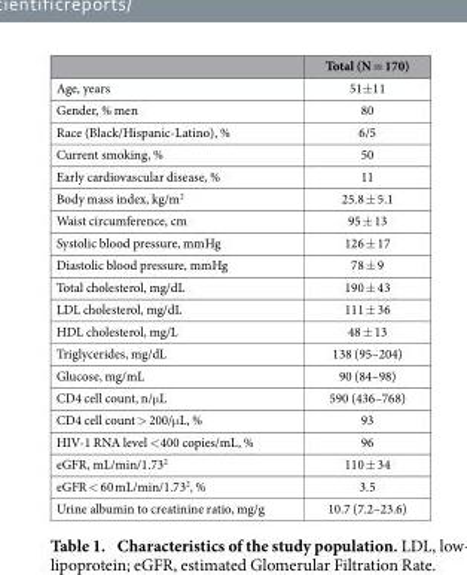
<table><thead><tr><td></td><td>Total (N = 170)</td></tr></thead><tbody><tr><td>Age, years</td><td>51± 11</td></tr><tr><td>Gender, % men</td><td>80</td></tr><tr><td>Race (Black/Hispanic-Latino), %</td><td>6/5</td></tr><tr><td>Current smoking, %</td><td>50</td></tr><tr><td>Early cardiovascular disease, %</td><td>11</td></tr><tr><td>Body mass index, kg/m<sup>2</sup></td><td>25.8 ± 5.1</td></tr><tr><td>Waist circumference, cm</td><td>95 ± 13</td></tr><tr><td>Systolic blood pressure, mmHg</td><td>126 ± 17</td></tr><tr><td>Diastolic blood pressure, mmHg</td><td>78 ± 9</td></tr><tr><td>Total cholesterol, mg/dL</td><td>190 ± 43</td></tr><tr><td>LDL cholesterol, mg/dL</td><td>111 ± 36</td></tr><tr><td>HDL cholesterol, mg/L</td><td>48 ± 13</td></tr><tr><td>Triglycerides, mg/dL</td><td>138 (95–204)</td></tr><tr><td>Glucose, mg/mL</td><td>90 (84–98)</td></tr><tr><td>CD4 cell count, n/μ L</td><td>590 (436–768)</td></tr><tr><td>CD4 cell count &gt; 200/μ L, %</td><td>93</td></tr><tr><td>HIV-1 RNA level &lt; 400 copies/mL, %</td><td>96</td></tr><tr><td>eGFR, mL/min/1.73<sup>2</sup></td><td>110 ± 34</td></tr><tr><td>eGFR &lt; 60 mL/min/1.73<sup>2</sup>, %</td><td>3.5</td></tr><tr><td>Urine albumin to creatinine ratio, mg/g</td><td>10.7 (7.2–23.6)</td></tr></tbody></table>